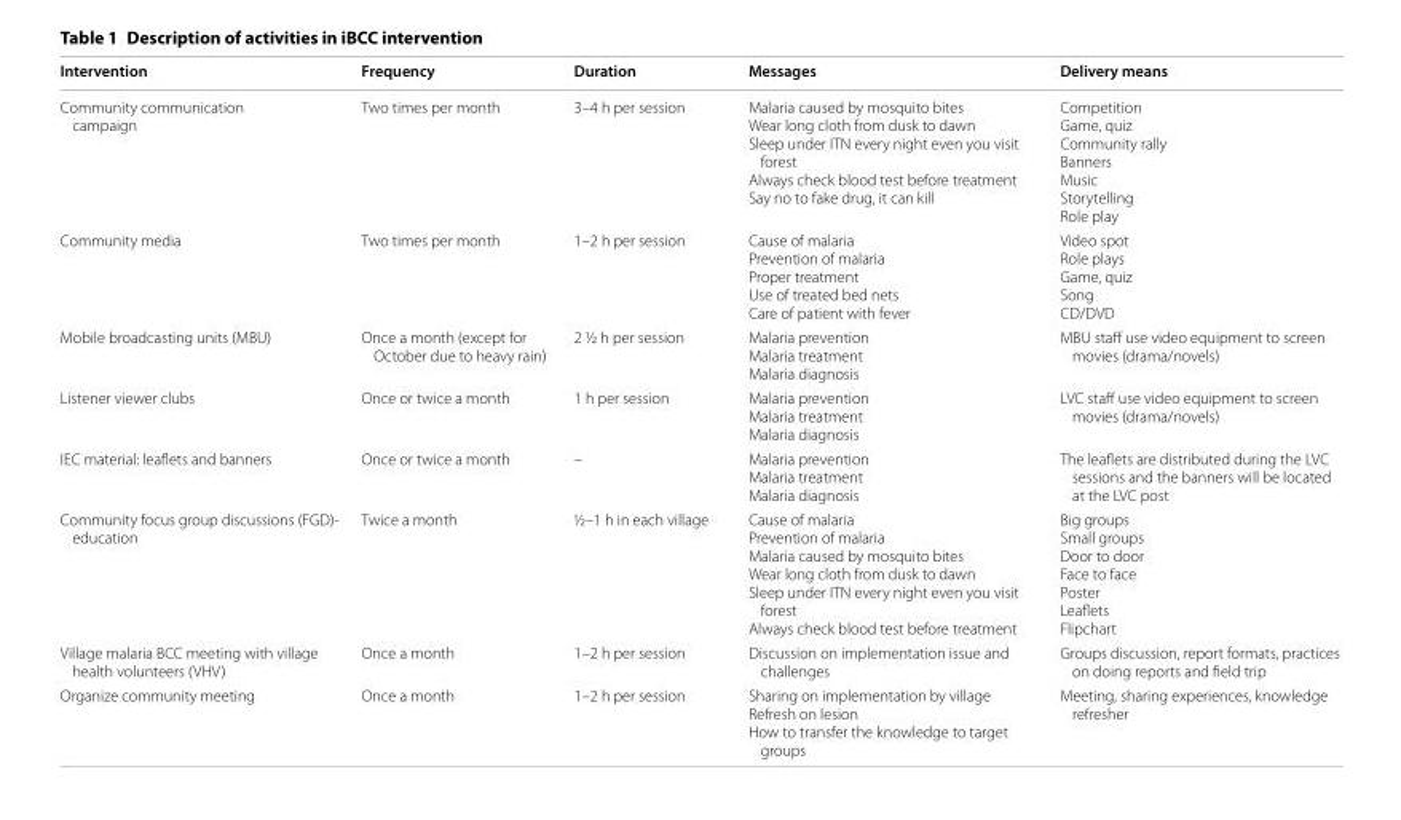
<table><thead><tr><td>Intervention</td><td>Frequency</td><td>Duration</td><td>Messages</td><td>Delivery means</td></tr></thead><tbody><tr><td>Community communication campaign</td><td>Two times per month</td><td>3–4 h per session</td><td>Malaria caused by mosquito bites Wear long cloth from dusk to dawn Sleep under ITN every night even you visit forest Always check blood test before treatment Say no to fake drug, it can kill</td><td>Competition Game, quiz Community rally Banners Music Storytelling Role play</td></tr><tr><td>Community media</td><td>Two times per month</td><td>1–2 h per session</td><td>Cause of malaria Prevention of malaria Proper treatment Use of treated bed nets Care of patient with fever</td><td>Video spot Role plays Game, quiz Song CD/DVD</td></tr><tr><td>Mobile broadcasting units (MBU)</td><td>Once a month (except for October due to heavy rain)</td><td>2 ½ h per session</td><td>Malaria prevention Malaria treatment Malaria diagnosis</td><td>MBU staff use video equipment to screen movies (drama/novels)</td></tr><tr><td>Listener viewer clubs</td><td>Once or twice a month</td><td>1 h per session</td><td>Malaria prevention Malaria treatment Malaria diagnosis</td><td>LVC staff use video equipment to screen movies (drama/novels)</td></tr><tr><td>IEC material: leaflets and banners</td><td>Once or twice a month</td><td>–</td><td>Malaria prevention Malaria treatment Malaria diagnosis</td><td>The leaflets are distributed during the LVC sessions and the banners will be located at the LVC post</td></tr><tr><td>Community focus group discussions (FGD)‑ education</td><td>Twice a month</td><td>½–1 h in each village</td><td>Cause of malaria Prevention of malaria Malaria caused by mosquito bites Wear long cloth from dusk to dawn Sleep under ITN every night even you visit forest Always check blood test before treatment</td><td>Big groups Small groups Door to door Face to face Poster Leaflets Flipchart</td></tr><tr><td>Village malaria BCC meeting with village health volunteers (VHV)</td><td>Once a month</td><td>1–2 h per session</td><td>Discussion on implementation issue and challenges</td><td>Groups discussion, report formats, practices on doing reports and field trip</td></tr><tr><td>Organize community meeting</td><td>Once a month</td><td>1–2 h per session</td><td>Sharing on implementation by village Refresh on lesion How to transfer the knowledge to target groups</td><td>Meeting, sharing experiences, knowledge refresher</td></tr></tbody></table>